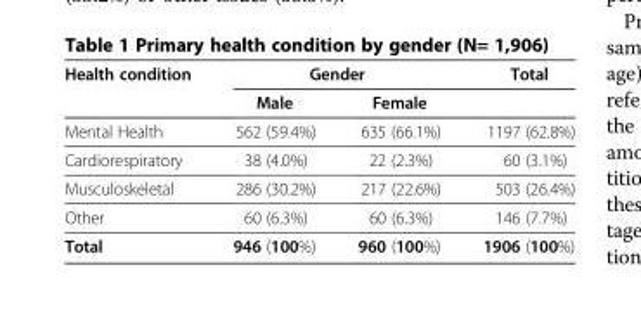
<table><thead><tr><td rowspan="2">Health condition</td><td colspan="2">Gender</td><td rowspan="2">Total</td></tr><tr><td>Male</td><td>Female</td></tr></thead><tbody><tr><td>Mental Health</td><td>562 (59.4%)</td><td>635 (66.1%)</td><td>1197 (62.8%)</td></tr><tr><td>Cardiorespiratory</td><td>38 (4.0%)</td><td>22 (2.3%)</td><td>60 (3.1%)</td></tr><tr><td>Musculoskeletal</td><td>286 (30.2%)</td><td>217 (22.6%)</td><td>503 (26.4%)</td></tr><tr><td>Other</td><td>60 (6.3%)</td><td>60 (6.3%)</td><td>146 (7.7%)</td></tr><tr><td>Total</td><td>946 (100%)</td><td>960 (100%)</td><td>1906 (100%)</td></tr></tbody></table>